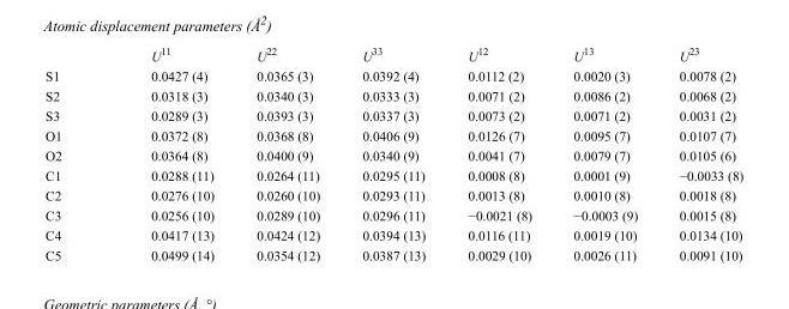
<table><thead><tr><td></td><td>U<sup>11</sup></td><td>U<sup>22</sup></td><td>U<sup>33</sup></td><td>U<sup>12</sup></td><td>U<sup>13</sup></td><td>U<sup>23</sup></td></tr></thead><tbody><tr><td>S1</td><td>0.0427 (4)</td><td>0.0365 (3)</td><td>0.0392 (4)</td><td>0.0112 (2)</td><td>0.0020 (3)</td><td>0.0078 (2)</td></tr><tr><td>S2</td><td>0.0318 (3)</td><td>0.0340 (3)</td><td>0.0333 (3)</td><td>0.0071 (2)</td><td>0.0086 (2)</td><td>0.0068 (2)</td></tr><tr><td>S3</td><td>0.0289 (3)</td><td>0.0393 (3)</td><td>0.0337 (3)</td><td>0.0073 (2)</td><td>0.0071 (2)</td><td>0.0031 (2)</td></tr><tr><td>O1</td><td>0.0372 (8)</td><td>0.0368 (8)</td><td>0.0406 (9)</td><td>0.0126 (7)</td><td>0.0095 (7)</td><td>0.0107 (7)</td></tr><tr><td>O2</td><td>0.0364 (8)</td><td>0.0400 (9)</td><td>0.0340 (9)</td><td>0.0041 (7)</td><td>0.0079 (7)</td><td>0.0105 (6)</td></tr><tr><td>C1</td><td>0.0288 (11)</td><td>0.0264 (11)</td><td>0.0295 (11)</td><td>0.0008 (8)</td><td>0.0001 (9)</td><td>−0.0033 (8)</td></tr><tr><td>C2</td><td>0.0276 (10)</td><td>0.0260 (10)</td><td>0.0293 (11)</td><td>0.0013 (8)</td><td>0.0010 (8)</td><td>0.0018 (8)</td></tr><tr><td>C3</td><td>0.0256 (10)</td><td>0.0289 (10)</td><td>0.0296 (11)</td><td>−0.0021 (8)</td><td>−0.0003 (9)</td><td>0.0015 (8)</td></tr><tr><td>C4</td><td>0.0417 (13)</td><td>0.0424 (12)</td><td>0.0394 (13)</td><td>0.0116 (11)</td><td>0.0019 (10)</td><td>0.0134 (10)</td></tr><tr><td>C5</td><td>0.0499 (14)</td><td>0.0354 (12)</td><td>0.0387 (13)</td><td>0.0029 (10)</td><td>0.0026 (11)</td><td>0.0091 (10)</td></tr></tbody></table>